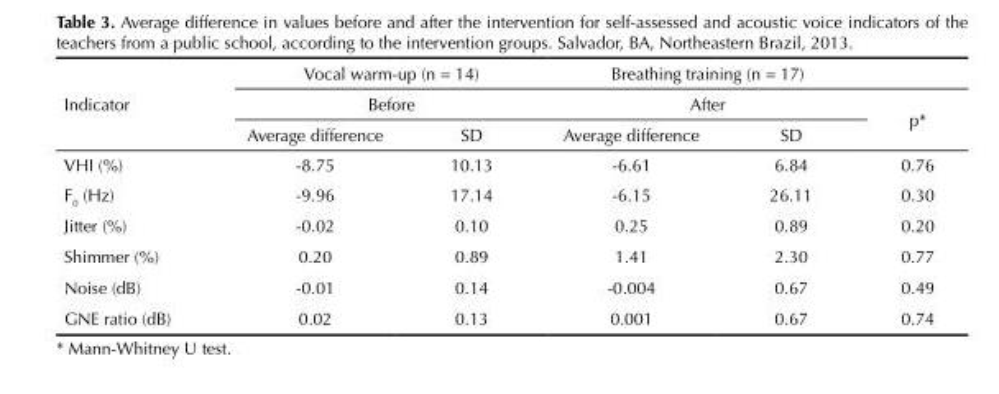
<table><thead><tr><td rowspan="3">Indicator</td><td rowspan="2" colspan="2">Vocal warm-up (n = 14) Before</td><td rowspan="2" colspan="2">Breathing training (n = 17) After</td><td rowspan="3">p*</td></tr><tr></tr><tr><td>Average difference</td><td>SD</td><td>Average difference</td><td>SD</td></tr></thead><tbody><tr><td>VHI (%)</td><td>-8.75</td><td>10.13</td><td>-6.61</td><td>6.84</td><td>0.76</td></tr><tr><td>F<sub>0</sub> (Hz)</td><td>-9.96</td><td>17.14</td><td>-6.15</td><td>26.11</td><td>0.30</td></tr><tr><td>Jitter (%)</td><td>-0.02</td><td>0.10</td><td>0.25</td><td>0.89</td><td>0.20</td></tr><tr><td>Shimmer (%)</td><td>0.20</td><td>0.89</td><td>1.41</td><td>2.30</td><td>0.77</td></tr><tr><td>Noise (dB)</td><td>-0.01</td><td>0.14</td><td>-0.004</td><td>0.67</td><td>0.49</td></tr><tr><td>GNE ratio (dB)</td><td>0.02</td><td>0.13</td><td>0.001</td><td>0.67</td><td>0.74</td></tr></tbody></table>